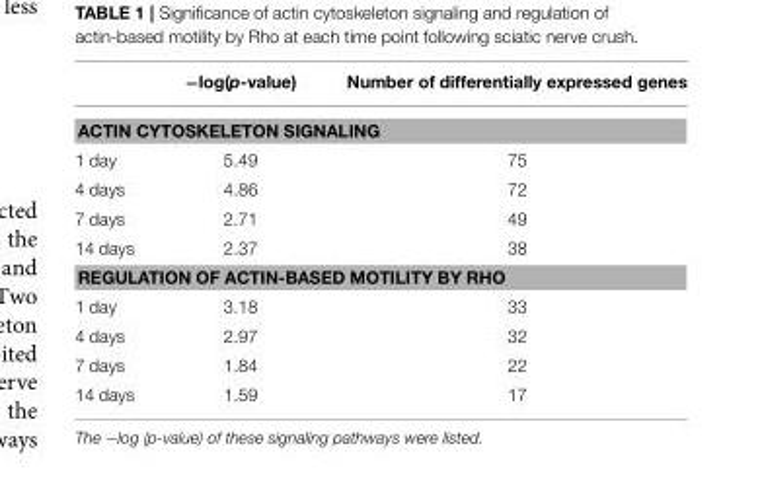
<table><thead><tr><td></td><td>−log(p-value)</td><td>Number of differentially expressed genes</td></tr></thead><tbody><tr><td colspan="3">ACTIN CYTOSKELETON SIGNALING</td></tr><tr><td>1 day</td><td>5.49</td><td>75</td></tr><tr><td>4 days</td><td>4.86</td><td>72</td></tr><tr><td>7 days</td><td>2.71</td><td>49</td></tr><tr><td>14 days</td><td>2.37</td><td>38</td></tr><tr><td colspan="3">REGULATION OF ACTIN-BASED MOTILITY BY RHO</td></tr><tr><td>1 day</td><td>3.18</td><td>33</td></tr><tr><td>4 days</td><td>2.97</td><td>32</td></tr><tr><td>7 days</td><td>1.84</td><td>22</td></tr><tr><td>14 days</td><td>1.59</td><td>17</td></tr></tbody></table>